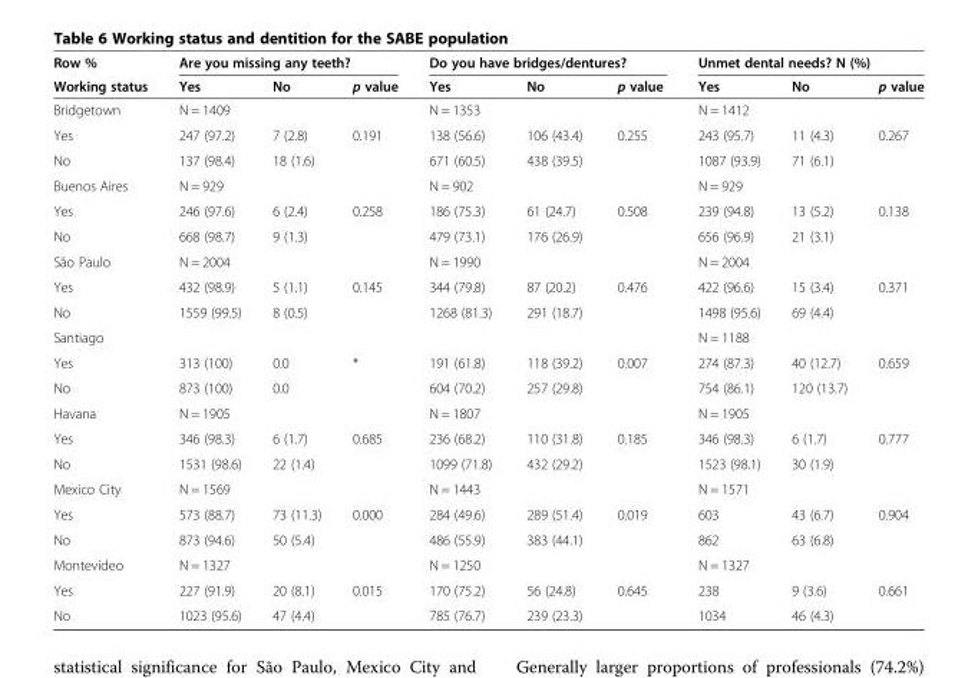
<table><thead><tr><td rowspan="2">Row % Working status</td><td colspan="3">Are you missing any teeth?</td><td colspan="3">Do you have bridges/dentures?</td><td colspan="3">Unmet dental needs? N (%)</td></tr><tr><td>Yes</td><td>No</td><td>p value</td><td>Yes</td><td>No</td><td>p value</td><td>Yes</td><td>No</td><td>p value</td></tr></thead><tbody><tr><td>Bridgetown</td><td colspan="2">N = 1409</td><td></td><td colspan="2">N = 1353</td><td></td><td colspan="3">N = 1412</td></tr><tr><td>Yes</td><td>247 (97.2)</td><td>7 (2.8)</td><td>0.191</td><td>138 (56.6)</td><td>106 (43.4)</td><td>0.255</td><td>243 (95.7)</td><td>11 (4.3)</td><td>0.267</td></tr><tr><td>No</td><td>137 (98.4)</td><td>18 (1.6)</td><td></td><td>671 (60.5)</td><td>438 (39.5)</td><td></td><td>1087 (93.9)</td><td>71 (6.1)</td><td></td></tr><tr><td>Buenos Aires</td><td colspan="2">N = 929</td><td></td><td colspan="2">N = 902</td><td></td><td colspan="3">N = 929</td></tr><tr><td>Yes</td><td>246 (97.6)</td><td>6 (2.4)</td><td>0.258</td><td>186 (75.3)</td><td>61 (24.7)</td><td>0.508</td><td>239 (94.8)</td><td>13 (5.2)</td><td>0.138</td></tr><tr><td>No</td><td>668 (98.7)</td><td>9 (1.3)</td><td></td><td>479 (73.1)</td><td>176 (26.9)</td><td></td><td>656 (96.9)</td><td>21 (3.1)</td><td></td></tr><tr><td>São Paulo</td><td colspan="2">N = 2004</td><td></td><td colspan="2">N = 1990</td><td></td><td colspan="3">N = 2004</td></tr><tr><td>Yes</td><td>432 (98.9)</td><td>5 (1.1)</td><td>0.145</td><td>344 (79.8)</td><td>87 (20.2)</td><td>0.476</td><td>422 (96.6)</td><td>15 (3.4)</td><td>0.371</td></tr><tr><td>No</td><td>1559 (99.5)</td><td>8 (0.5)</td><td></td><td>1268 (81.3)</td><td>291 (18.7)</td><td></td><td>1498 (95.6)</td><td>69 (4.4)</td><td></td></tr><tr><td>Santiago</td><td colspan="2"></td><td></td><td colspan="2"></td><td></td><td colspan="3">N = 1188</td></tr><tr><td>Yes</td><td>313 (100)</td><td>0.0</td><td>*</td><td>191 (61.8)</td><td>118 (39.2)</td><td>0.007</td><td>274 (87.3)</td><td>40 (12.7)</td><td>0.659</td></tr><tr><td>No</td><td>873 (100)</td><td>0.0</td><td></td><td>604 (70.2)</td><td>257 (29.8)</td><td></td><td>754 (86.1)</td><td>120 (13.7)</td><td></td></tr><tr><td>Havana</td><td colspan="2">N = 1905</td><td></td><td colspan="2">N = 1807</td><td></td><td colspan="3">N = 1905</td></tr><tr><td>Yes</td><td>346 (98.3)</td><td>6 (1.7)</td><td>0.685</td><td>236 (68.2)</td><td>110 (31.8)</td><td>0.185</td><td>346 (98.3)</td><td>6 (1.7)</td><td>0.777</td></tr><tr><td>No</td><td>1531 (98.6)</td><td>22 (1.4)</td><td></td><td>1099 (71.8)</td><td>432 (29.2)</td><td></td><td>1523 (98.1)</td><td>30 (1.9)</td><td></td></tr><tr><td>Mexico City</td><td colspan="2">N = 1569</td><td></td><td colspan="2">N = 1443</td><td></td><td colspan="3">N = 1571</td></tr><tr><td>Yes</td><td>573 (88.7)</td><td>73 (11.3)</td><td>0.000</td><td>284 (49.6)</td><td>289 (51.4)</td><td>0.019</td><td>603</td><td>43 (6.7)</td><td>0.904</td></tr><tr><td>No</td><td>873 (94.6)</td><td>50 (5.4)</td><td></td><td>486 (55.9)</td><td>383 (44.1)</td><td></td><td>862</td><td>63 (6.8)</td><td></td></tr><tr><td>Montevideo</td><td colspan="2">N = 1327</td><td></td><td colspan="2">N = 1250</td><td></td><td colspan="3">N = 1327</td></tr><tr><td>Yes</td><td>227 (91.9)</td><td>20 (8.1)</td><td>0.015</td><td>170 (75.2)</td><td>56 (24.8)</td><td>0.645</td><td>238</td><td>9 (3.6)</td><td>0.661</td></tr><tr><td>No</td><td>1023 (95.6)</td><td>47 (4.4)</td><td></td><td>785 (76.7)</td><td>239 (23.3)</td><td></td><td>1034</td><td>46 (4.3)</td><td></td></tr></tbody></table>